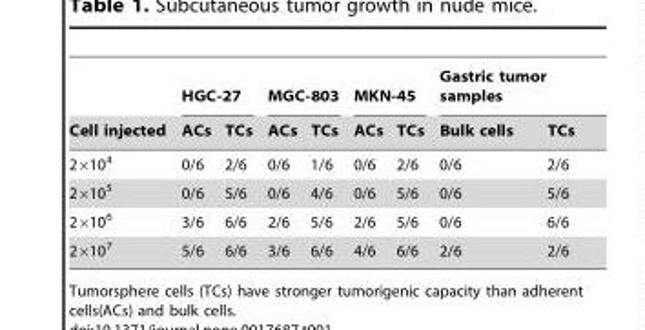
<table><thead><tr><td rowspan="2">Cell injected</td><td colspan="2">HGC-27</td><td colspan="2">MGC-803</td><td colspan="2">MKN-45</td><td colspan="2">Gastric tumor samples</td></tr><tr><td>ACs</td><td>TCs</td><td>ACs</td><td>TCs</td><td>ACs</td><td>TCs</td><td>Bulk cells</td><td>TCs</td></tr></thead><tbody><tr><td>2×10<sup>4</sup></td><td>0/6</td><td>2/6</td><td>0/6</td><td>1/6</td><td>0/6</td><td>2/6</td><td>0/6</td><td>2/6</td></tr><tr><td>2×10<sup>5</sup></td><td>0/6</td><td>5/6</td><td>0/6</td><td>4/6</td><td>0/6</td><td>5/6</td><td>0/6</td><td>5/6</td></tr><tr><td>2×10<sup>6</sup></td><td>3/6</td><td>6/6</td><td>2/6</td><td>5/6</td><td>2/6</td><td>5/6</td><td>0/6</td><td>6/6</td></tr><tr><td>2×10<sup>7</sup></td><td>5/6</td><td>6/6</td><td>3/6</td><td>6/6</td><td>4/6</td><td>6/6</td><td>2/6</td><td>2/6</td></tr></tbody></table>